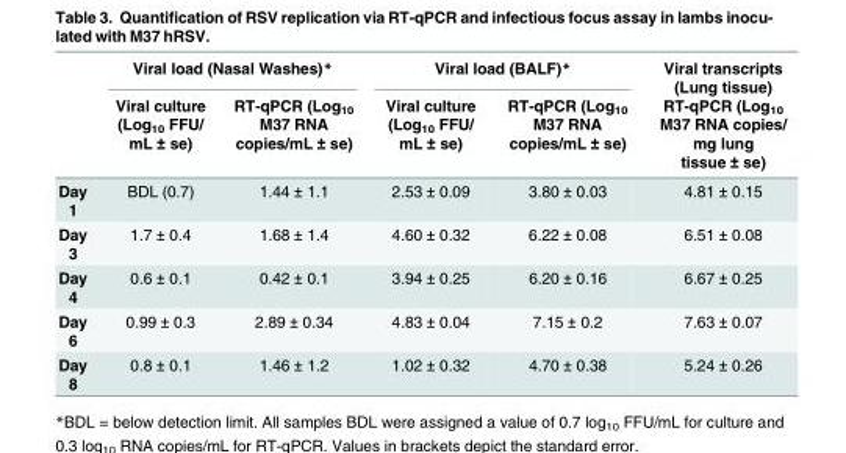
<table><thead><tr><td rowspan="2"></td><td colspan="2">Viral load (Nasal Washes)*</td><td colspan="2">Viral load (BALF)*</td><td rowspan="2">Viral transcripts (Lung tissue) RT-qPCR (Log<sub>10</sub> M37 RNA copies/ mg lung tissue ± se)</td></tr><tr><td>Viral culture (Log<sub>10</sub> FFU/ mL ± se)</td><td>RT-qPCR (Log<sub>10</sub> M37 RNA copies/mL ± se)</td><td>Viral culture (Log<sub>10</sub> FFU/ mL ± se)</td><td>RT-qPCR (Log<sub>10</sub> M37 RNA copies/mL ± se)</td></tr></thead><tbody><tr><td>Day 1</td><td>BDL (0.7)</td><td>1.44 ± 1.1</td><td>2.53 ± 0.09</td><td>3.80 ± 0.03</td><td>4.81 ± 0.15</td></tr><tr><td>Day 3</td><td>1.7 ± 0.4</td><td>1.68 ± 1.4</td><td>4.60 ± 0.32</td><td>6.22 ± 0.08</td><td>6.51 ± 0.08</td></tr><tr><td>Day 4</td><td>0.6 ± 0.1</td><td>0.42 ± 0.1</td><td>3.94 ± 0.25</td><td>6.20 ± 0.16</td><td>6.67 ± 0.25</td></tr><tr><td>Day 6</td><td>0.99 ± 0.3</td><td>2.89 ± 0.34</td><td>4.83 ± 0.04</td><td>7.15 ± 0.2</td><td>7.63 ± 0.07</td></tr><tr><td>Day 8</td><td>0.8 ± 0.1</td><td>1.46 ± 1.2</td><td>1.02 ± 0.32</td><td>4.70 ± 0.38</td><td>5.24 ± 0.26</td></tr></tbody></table>